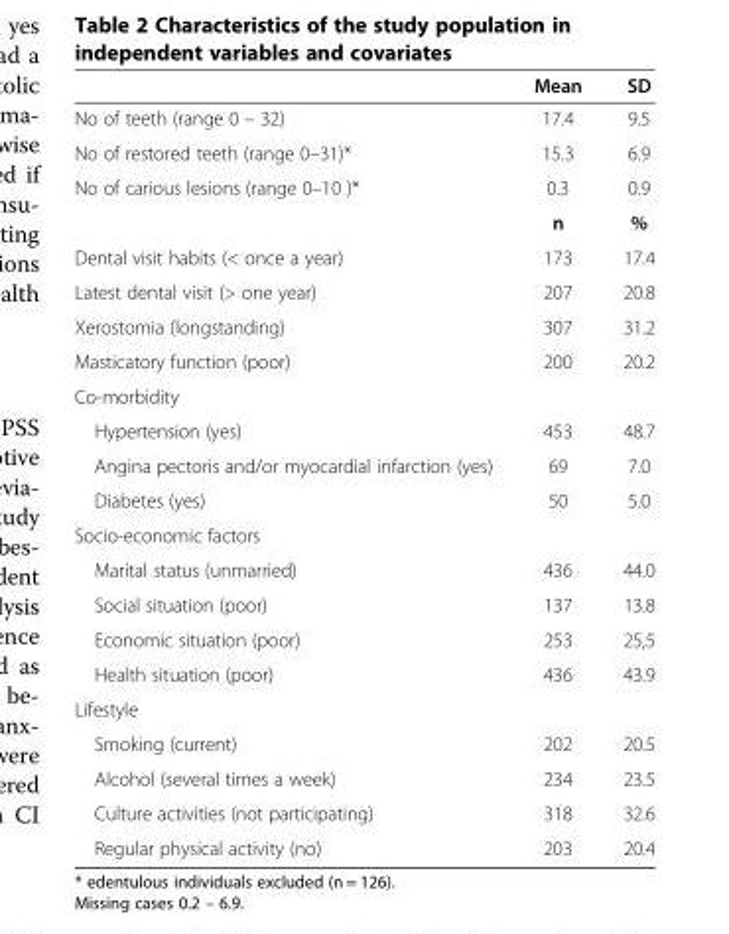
<table><thead><tr><td></td><td>Mean</td><td>SD</td></tr></thead><tbody><tr><td>No of teeth (range 0 – 32)</td><td>17.4</td><td>9.5</td></tr><tr><td>No of restored teeth (range 0–31)*</td><td>15.3</td><td>6.9</td></tr><tr><td rowspan="2">No of carious lesions (range 0–10 )*</td><td>0.3</td><td>0.9</td></tr><tr><td>n</td><td>%</td></tr><tr><td>Dental visit habits (&lt; once a year)</td><td>173</td><td>17.4</td></tr><tr><td>Latest dental visit (&gt; one year)</td><td>207</td><td>20.8</td></tr><tr><td>Xerostomia (longstanding)</td><td>307</td><td>31.2</td></tr><tr><td>Masticatory function (poor)</td><td>200</td><td>20.2</td></tr><tr><td colspan="3">Co-morbidity</td></tr><tr><td>Hypertension (yes)</td><td>453</td><td>48.7</td></tr><tr><td>Angina pectoris and/or myocardial infarction (yes)</td><td>69</td><td>7.0</td></tr><tr><td>Diabetes (yes)</td><td>50</td><td>5.0</td></tr><tr><td colspan="3">Socio-economic factors</td></tr><tr><td>Marital status (unmarried)</td><td>436</td><td>44.0</td></tr><tr><td>Social situation (poor)</td><td>137</td><td>13.8</td></tr><tr><td>Economic situation (poor)</td><td>253</td><td>25,5</td></tr><tr><td>Health situation (poor)</td><td>436</td><td>43.9</td></tr><tr><td colspan="3">Lifestyle</td></tr><tr><td>Smoking (current)</td><td>202</td><td>20.5</td></tr><tr><td>Alcohol (several times a week)</td><td>234</td><td>23.5</td></tr><tr><td>Culture activities (not participating)</td><td>318</td><td>32.6</td></tr><tr><td>Regular physical activity (no)</td><td>203</td><td>20.4</td></tr></tbody></table>